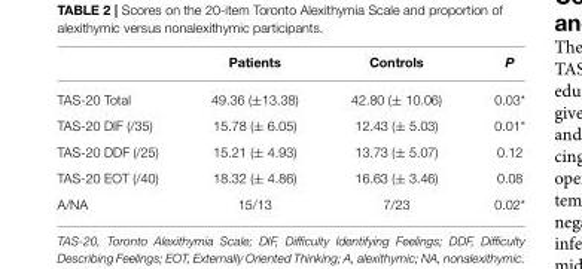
<table><thead><tr><td></td><td>Patients</td><td>Controls</td><td>P</td></tr></thead><tbody><tr><td>TAS-20 Total</td><td>49.36 (±13.38)</td><td>42.80 (± 10.06)</td><td>0.03*</td></tr><tr><td>TAS-20 DIF (/35)</td><td>15.78 (± 6.05)</td><td>12.43 (± 5.03)</td><td>0.01*</td></tr><tr><td>TAS-20 DDF (/25)</td><td>15.21 (± 4.93)</td><td>13.73 (± 5.07)</td><td>0.12</td></tr><tr><td>TAS-20 EOT (/40)</td><td>18.32 (± 4.86)</td><td>16.63 (± 3.46)</td><td>0.08</td></tr><tr><td>A/NA</td><td>15/13</td><td>7/23</td><td>0.02*</td></tr></tbody></table>